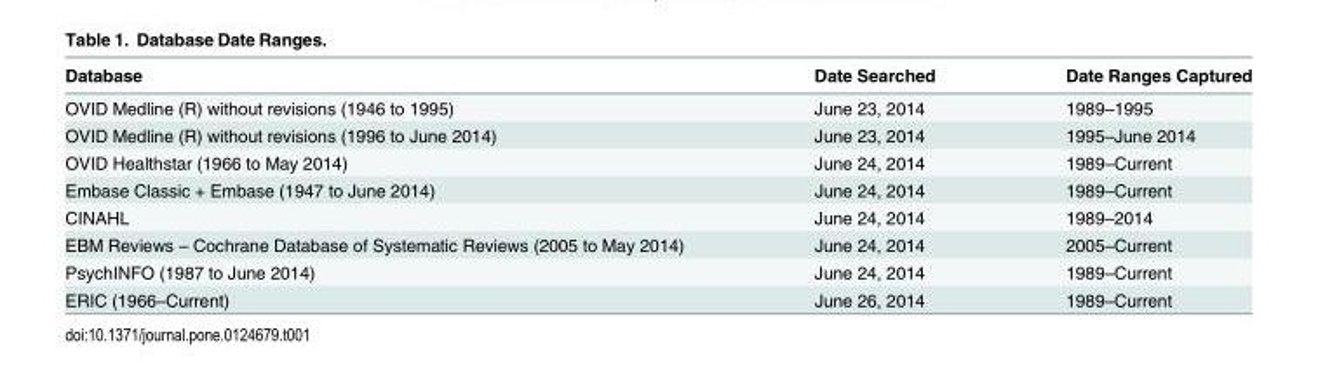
<table><thead><tr><td>Database</td><td>Date Searched</td><td>Date Ranges Captured</td></tr></thead><tbody><tr><td>OVID Medline (R) without revisions (1946 to 1995)</td><td>June 23, 2014</td><td>1989–1995</td></tr><tr><td>OVID Medline (R) without revisions (1996 to June 2014)</td><td>June 23, 2014</td><td>1995–June 2014</td></tr><tr><td>OVID Healthstar (1966 to May 2014)</td><td>June 24, 2014</td><td>1989–Current</td></tr><tr><td>Embase Classic + Embase (1947 to June 2014)</td><td>June 24, 2014</td><td>1989–Current</td></tr><tr><td>CINAHL</td><td>June 24, 2014</td><td>1989–2014</td></tr><tr><td>EBM Reviews – Cochrane Database of Systematic Reviews (2005 to May 2014)</td><td>June 24, 2014</td><td>2005–Current</td></tr><tr><td>PsychINFO (1987 to June 2014)</td><td>June 24, 2014</td><td>1989–Current</td></tr><tr><td>ERIC (1966–Current)</td><td>June 26, 2014</td><td>1989–Current</td></tr></tbody></table>